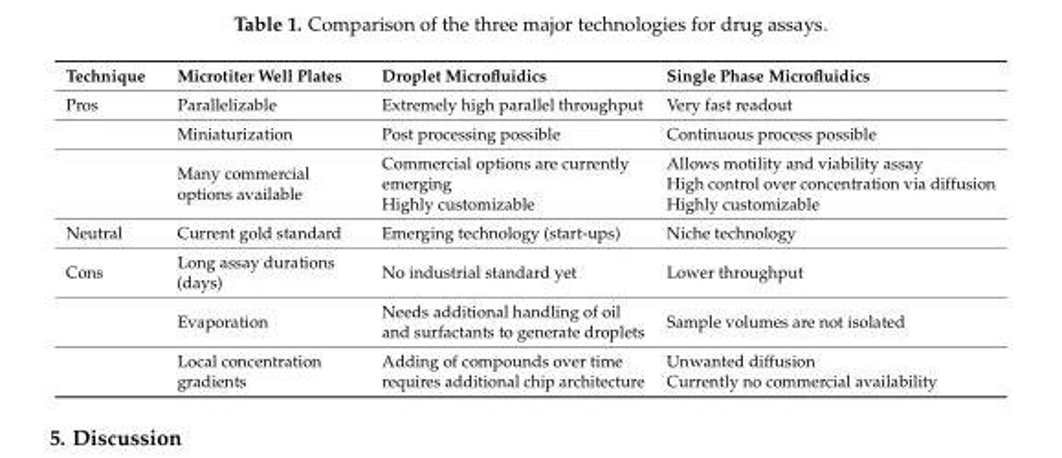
<table><thead><tr><td>Technique</td><td>Microtiter Well Plates</td><td>Droplet Microfluidics</td><td>Single Phase Microfluidics</td></tr></thead><tbody><tr><td rowspan="3">Pros</td><td>Parallelizable</td><td>Extremely high parallel throughput</td><td>Very fast readout</td></tr><tr><td>Miniaturization</td><td>Post processing possible</td><td>Continuous process possible</td></tr><tr><td>Many commercial options available</td><td>Commercial options are currently emerging Highly customizable</td><td>Allows motility and viability assay High control over concentration via diffusion Highly customizable</td></tr><tr><td>Neutral</td><td>Current gold standard</td><td>Emerging technology (start-ups)</td><td>Niche technology</td></tr><tr><td rowspan="3">Cons</td><td>Long assay durations (days)</td><td>No industrial standard yet</td><td>Lower throughput</td></tr><tr><td>Evaporation</td><td>Needs additional handling of oil and surfactants to generate droplets</td><td>Sample volumes are not isolated</td></tr><tr><td>Local concentration gradients</td><td>Adding of compounds over time requires additional chip architecture</td><td>Unwanted diffusion Currently no commercial availability</td></tr></tbody></table>